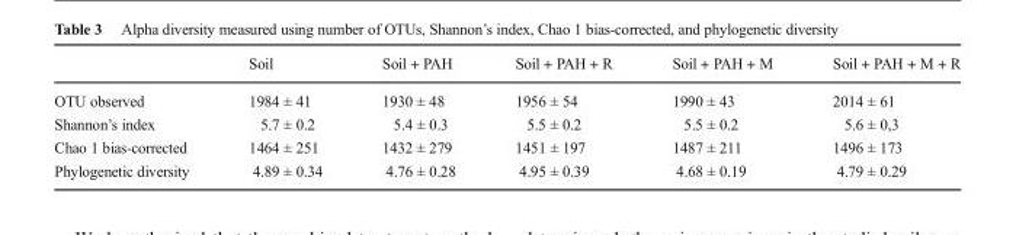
<table><thead><tr><td></td><td>Soil</td><td>Soil + PAH</td><td>Soil + PAH + R</td><td>Soil + PAH + M</td><td>Soil + PAH + M + R</td></tr></thead><tbody><tr><td>OTU observed</td><td>1984 ± 41</td><td>1930 ± 48</td><td>1956 ± 54</td><td>1990 ± 43</td><td>2014 ± 61</td></tr><tr><td>Shannon’s index</td><td>5.7 ± 0.2</td><td>5.4 ± 0.3</td><td>5.5 ± 0.2</td><td>5.5 ± 0.2</td><td>5.6 ± 0,3</td></tr><tr><td>Chao 1 bias-corrected</td><td>1464 ± 251</td><td>1432 ± 279</td><td>1451 ± 197</td><td>1487 ± 211</td><td>1496 ± 173</td></tr><tr><td>Phylogenetic diversity</td><td>4.89 ± 0.34</td><td>4.76 ± 0.28</td><td>4.95 ± 0.39</td><td>4.68 ± 0.19</td><td>4.79 ± 0.29</td></tr></tbody></table>